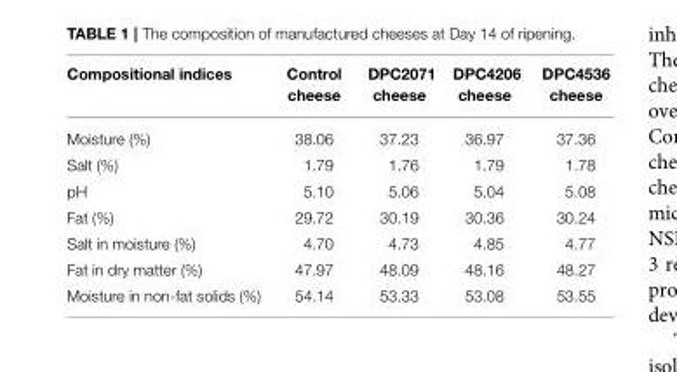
<table><thead><tr><td>Compositional indices</td><td>Control cheese</td><td>DPC2071 cheese</td><td>DPC4206 cheese</td><td>DPC4536 cheese</td></tr></thead><tbody><tr><td>Moisture (%)</td><td>38.06</td><td>37.23</td><td>36.97</td><td>37.36</td></tr><tr><td>Salt (%)</td><td>1.79</td><td>1.76</td><td>1.79</td><td>1.78</td></tr><tr><td>pH</td><td>5.10</td><td>5.06</td><td>5.04</td><td>5.08</td></tr><tr><td>Fat (%)</td><td>29.72</td><td>30.19</td><td>30.36</td><td>30.24</td></tr><tr><td>Salt in moisture (%)</td><td>4.70</td><td>4.73</td><td>4.85</td><td>4.77</td></tr><tr><td>Fat in dry matter (%)</td><td>47.97</td><td>48.09</td><td>48.16</td><td>48.27</td></tr><tr><td>Moisture in non-fat solids (%)</td><td>54.14</td><td>53.33</td><td>53.08</td><td>53.55</td></tr></tbody></table>